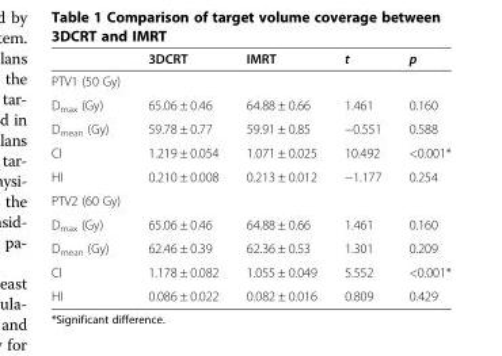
<table><thead><tr><td></td><td>3DCRT</td><td>IMRT</td><td>t</td><td>p</td></tr></thead><tbody><tr><td colspan="5">PTV1 (50 Gy)</td></tr><tr><td>D<sub>max</sub> (Gy)</td><td>65.06 ± 0.46</td><td>64.88 ± 0.66</td><td>1.461</td><td>0.160</td></tr><tr><td>D<sub>mean</sub> (Gy)</td><td>59.78 ± 0.77</td><td>59.91 ± 0.85</td><td>−0.551</td><td>0.588</td></tr><tr><td>CI</td><td>1.219 ± 0.054</td><td>1.071 ± 0.025</td><td>10.492</td><td>&lt;0.001*</td></tr><tr><td>HI</td><td>0.210 ± 0.008</td><td>0.213 ± 0.012</td><td>−1.177</td><td>0.254</td></tr><tr><td colspan="5">PTV2 (60 Gy)</td></tr><tr><td>D<sub>max</sub> (Gy)</td><td>65.06 ± 0.46</td><td>64.88 ± 0.66</td><td>1.461</td><td>0.160</td></tr><tr><td>D<sub>mean</sub> (Gy)</td><td>62.46 ± 0.39</td><td>62.36 ± 0.53</td><td>1.301</td><td>0.209</td></tr><tr><td>CI</td><td>1.178 ± 0.082</td><td>1.055 ± 0.049</td><td>5.552</td><td>&lt;0.001*</td></tr><tr><td>HI</td><td>0.086 ± 0.022</td><td>0.082 ± 0.016</td><td>0.809</td><td>0.429</td></tr></tbody></table>